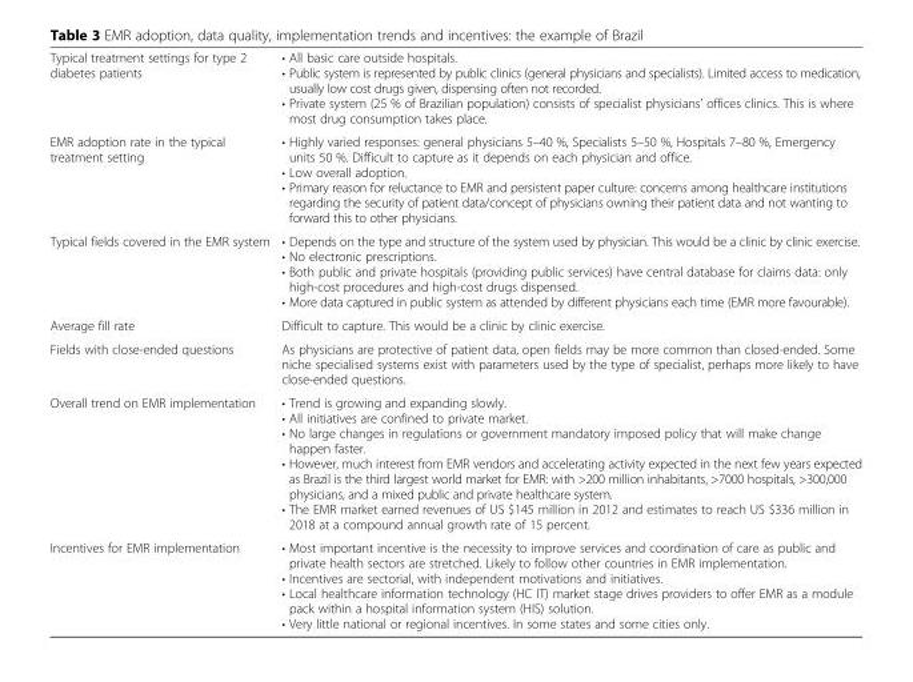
<table><tbody><tr><td>Typical treatment settings for type 2 diabetes patients</td><td>• All basic care outside hospitals. • Public system is represented by public clinics (general physicians and specialists). Limited access to medication, usually low cost drugs given, dispensing often not recorded. • Private system (25 % of Brazilian population) consists of specialist physicians’ offices clinics. This is where most drug consumption takes place.</td></tr><tr><td>EMR adoption rate in the typical treatment setting</td><td>• Highly varied responses: general physicians 5–40 %, Specialists 5–50 %, Hospitals 7–80 %, Emergency units 50 %. Difficult to capture as it depends on each physician and office. • Low overall adoption. • Primary reason for reluctance to EMR and persistent paper culture: concerns among healthcare institutions regarding the security of patient data/concept of physicians owning their patient data and not wanting to forward this to other physicians.</td></tr><tr><td>Typical fields covered in the EMR system</td><td>• Depends on the type and structure of the system used by physician. This would be a clinic by clinic exercise. • No electronic prescriptions. • Both public and private hospitals (providing public services) have central database for claims data: only high-cost procedures and high-cost drugs dispensed. • More data captured in public system as attended by different physicians each time (EMR more favourable).</td></tr><tr><td>Average fill rate</td><td>Difficult to capture. This would be a clinic by clinic exercise.</td></tr><tr><td>Fields with close-ended questions</td><td>As physicians are protective of patient data, open fields may be more common than closed-ended. Some niche specialised systems exist with parameters used by the type of specialist, perhaps more likely to have close-ended questions.</td></tr><tr><td>Overall trend on EMR implementation</td><td>• Trend is growing and expanding slowly. • All initiatives are confined to private market. • No large changes in regulations or government mandatory imposed policy that will make change happen faster. • However, much interest from EMR vendors and accelerating activity expected in the next few years expected as Brazil is the third largest world market for EMR: with &gt;200 million inhabitants, &gt;7000 hospitals, &gt;300,000 physicians, and a mixed public and private healthcare system. • The EMR market earned revenues of US $145 million in 2012 and estimates to reach US $336 million in 2018 at a compound annual growth rate of 15 percent.</td></tr><tr><td>Incentives for EMR implementation</td><td>• Most important incentive is the necessity to improve services and coordination of care as public and private health sectors are stretched. Likely to follow other countries in EMR implementation. • Incentives are sectorial, with independent motivations and initiatives. • Local healthcare information technology (HC IT) market stage drives providers to offer EMR as a module pack within a hospital information system (HIS) solution. • Very little national or regional incentives. In some states and some cities only.</td></tr></tbody></table>